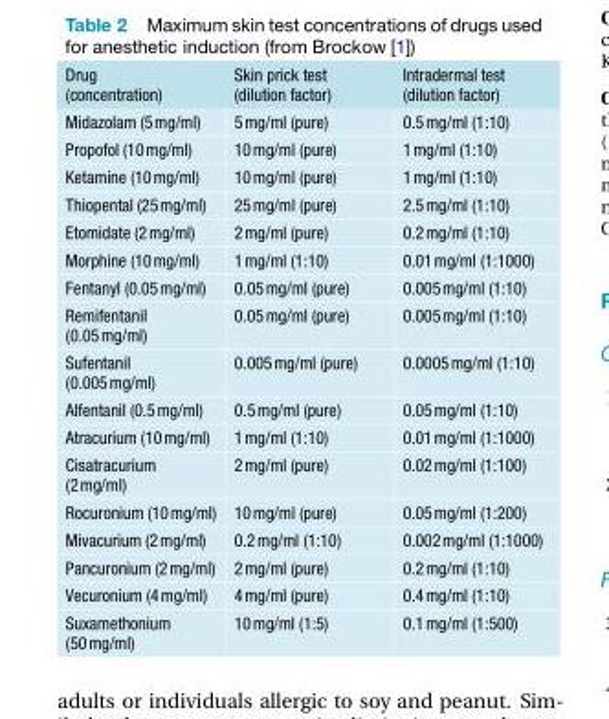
<table><thead><tr><td>Drug (concentration)</td><td>Skin prick test (dilution factor)</td><td>Intradermal test (dilution factor)</td></tr></thead><tbody><tr><td>Midazolam (5mg/ml)</td><td>5mg/ml (pure)</td><td>0.5mg/ml (1:10)</td></tr><tr><td>Propofol (10mg/ml)</td><td>10mg/ml (pure)</td><td>1mg/ml (1:10)</td></tr><tr><td>Ketamine (10mg/ml)</td><td>10mg/ml (pure)</td><td>1mg/ml (1:10)</td></tr><tr><td>Thiopental (25mg/ml)</td><td>25mg/ml (pure)</td><td>2.5mg/ml (1:10)</td></tr><tr><td>Etomidate (2mg/ml)</td><td>2mg/ml (pure)</td><td>0.2mg/ml (1:10)</td></tr><tr><td>Morphine (10mg/ml)</td><td>1mg/ml (1:10)</td><td>0.01mg/ml (1:1000)</td></tr><tr><td>Fentanyl (0.05mg/ml)</td><td>0.05mg/ml (pure)</td><td>0.005mg/ml (1:10)</td></tr><tr><td>Remifentanil (0.05mg/ml)</td><td>0.05mg/ml (pure)</td><td>0.005mg/ml (1:10)</td></tr><tr><td>Sufentanil (0.005mg/ml)</td><td>0.005mg/ml (pure)</td><td>0.0005mg/ml (1:10)</td></tr><tr><td>Alfentanil (0.5mg/ml)</td><td>0.5mg/ml (pure)</td><td>0.05mg/ml (1:10)</td></tr><tr><td>Atracurium (10mg/ml)</td><td>1mg/ml (1:10)</td><td>0.01mg/ml (1:1000)</td></tr><tr><td>Cisatracurium (2mg/ml)</td><td>2mg/ml (pure)</td><td>0.02mg/ml (1:100)</td></tr><tr><td>Rocuronium (10mg/ml)</td><td>10mg/ml (pure)</td><td>0.05mg/ml (1:200)</td></tr><tr><td>Mivacurium (2mg/ml)</td><td>0.2mg/ml (1:10)</td><td>0.002mg/ml (1:1000)</td></tr><tr><td>Pancuronium (2mg/ml)</td><td>2mg/ml (pure)</td><td>0.2mg/ml (1:10)</td></tr><tr><td>Vecuronium (4mg/ml)</td><td>4mg/ml (pure)</td><td>0.4mg/ml (1:10)</td></tr><tr><td>Suxamethonium (50mg/ml)</td><td>10mg/ml (1:5)</td><td>0.1mg/ml (1:500)</td></tr></tbody></table>